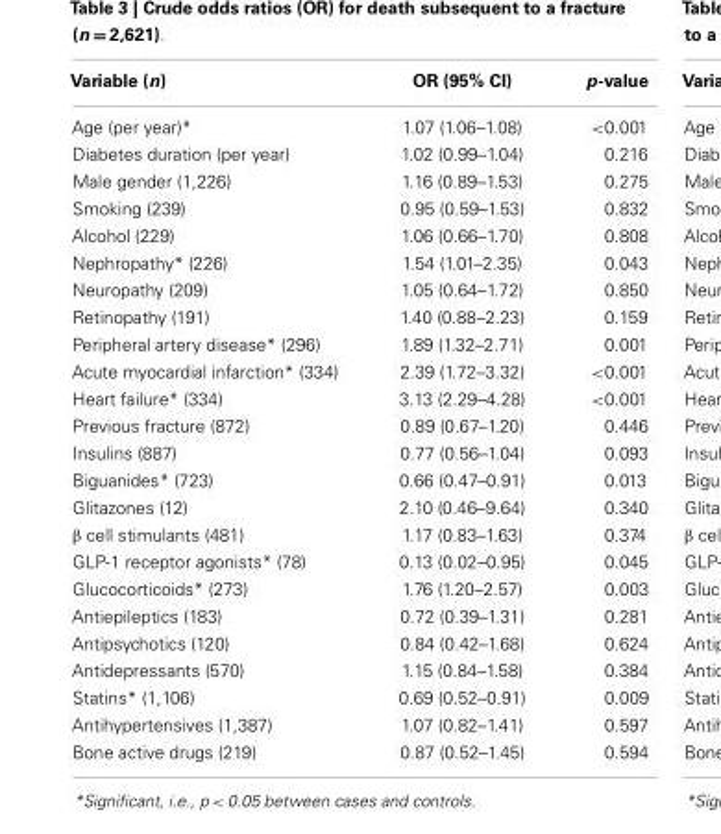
<table><thead><tr><td>Variable (n)</td><td>OR (95% CI)</td><td>p-value</td></tr></thead><tbody><tr><td>Age (per year)*</td><td>1.07 (1.06–1.08)</td><td>&lt;0.001</td></tr><tr><td>Diabetes duration (per year)</td><td>1.02 (0.99–1.04)</td><td>0.216</td></tr><tr><td>Male gender (1,226)</td><td>1.16 (0.89–1.53)</td><td>0.275</td></tr><tr><td>Smoking (239)</td><td>0.95 (0.59–1.53)</td><td>0.832</td></tr><tr><td>Alcohol (229)</td><td>1.06 (0.66–1.70)</td><td>0.808</td></tr><tr><td>Nephropathy* (226)</td><td>1.54 (1.01–2.35)</td><td>0.043</td></tr><tr><td>Neuropathy (209)</td><td>1.05 (0.64–1.72)</td><td>0.850</td></tr><tr><td>Retinopathy (191)</td><td>1.40 (0.88–2.23)</td><td>0.159</td></tr><tr><td>Peripheral artery disease* (296)</td><td>1.89 (1.32–2.71)</td><td>0.001</td></tr><tr><td>Acute myocardial infarction* (334)</td><td>2.39 (1.72–3.32)</td><td>&lt;0.001</td></tr><tr><td>Heart failure* (334)</td><td>3.13 (2.29–4.28)</td><td>&lt;0.001</td></tr><tr><td>Previous fracture (872)</td><td>0.89 (0.67–1.20)</td><td>0.446</td></tr><tr><td>Insulins (887)</td><td>0.77 (0.56–1.04)</td><td>0.093</td></tr><tr><td>Biguanides* (723)</td><td>0.66 (0.47–0.91)</td><td>0.013</td></tr><tr><td>Glitazones (12)</td><td>2.10 (0.46–9.64)</td><td>0.340</td></tr><tr><td>β cell stimulants (481)</td><td>1.17 (0.83–1.63)</td><td>0.374</td></tr><tr><td>GLP-1 receptor agonists* (78)</td><td>0.13 (0.02–0.95)</td><td>0.045</td></tr><tr><td>Glucocorticoids* (273)</td><td>1.76 (1.20–2.57)</td><td>0.003</td></tr><tr><td>Antiepileptics (183)</td><td>0.72 (0.39–1.31)</td><td>0.281</td></tr><tr><td>Antipsychotics (120)</td><td>0.84 (0.42–1.68)</td><td>0.624</td></tr><tr><td>Antidepressants (570)</td><td>1.15 (0.84–1.58)</td><td>0.384</td></tr><tr><td>Statins* (1,106)</td><td>0.69 (0.52–0.91)</td><td>0.009</td></tr><tr><td>Antihypertensives (1,387)</td><td>1.07 (0.82–1.41)</td><td>0.597</td></tr><tr><td>Bone active drugs (219)</td><td>0.87 (0.52–1.45)</td><td>0.594</td></tr></tbody></table>